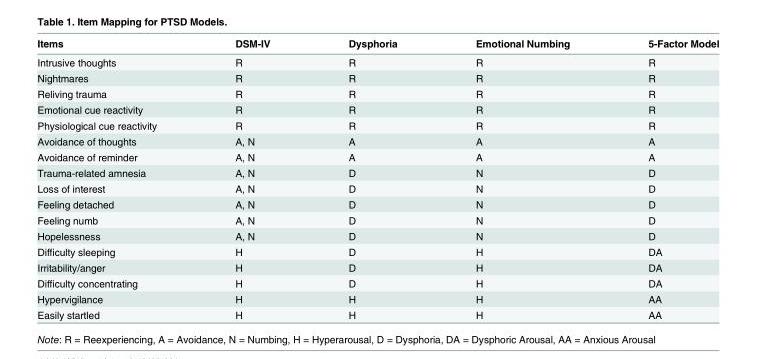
<table><thead><tr><td>Items</td><td>DSM-IV</td><td>Dysphoria</td><td>Emotional Numbing</td><td>5-Factor Model</td></tr></thead><tbody><tr><td>Intrusive thoughts</td><td>R</td><td>R</td><td>R</td><td>R</td></tr><tr><td>Nightmares</td><td>R</td><td>R</td><td>R</td><td>R</td></tr><tr><td>Reliving trauma</td><td>R</td><td>R</td><td>R</td><td>R</td></tr><tr><td>Emotional cue reactivity</td><td>R</td><td>R</td><td>R</td><td>R</td></tr><tr><td>Physiological cue reactivity</td><td>R</td><td>R</td><td>R</td><td>R</td></tr><tr><td>Avoidance of thoughts</td><td>A, N</td><td>A</td><td>A</td><td>A</td></tr><tr><td>Avoidance of reminder</td><td>A, N</td><td>A</td><td>A</td><td>A</td></tr><tr><td>Trauma-related amnesia</td><td>A, N</td><td>D</td><td>N</td><td>D</td></tr><tr><td>Loss of interest</td><td>A, N</td><td>D</td><td>N</td><td>D</td></tr><tr><td>Feeling detached</td><td>A, N</td><td>D</td><td>N</td><td>D</td></tr><tr><td>Feeling numb</td><td>A, N</td><td>D</td><td>N</td><td>D</td></tr><tr><td>Hopelessness</td><td>A, N</td><td>D</td><td>N</td><td>D</td></tr><tr><td>Difficulty sleeping</td><td>H</td><td>D</td><td>H</td><td>DA</td></tr><tr><td>Irritability/anger</td><td>H</td><td>D</td><td>H</td><td>DA</td></tr><tr><td>Difficulty concentrating</td><td>H</td><td>D</td><td>H</td><td>DA</td></tr><tr><td>Hypervigilance</td><td>H</td><td>H</td><td>H</td><td>AA</td></tr><tr><td>Easily startled</td><td>H</td><td>H</td><td>H</td><td>AA</td></tr></tbody></table>